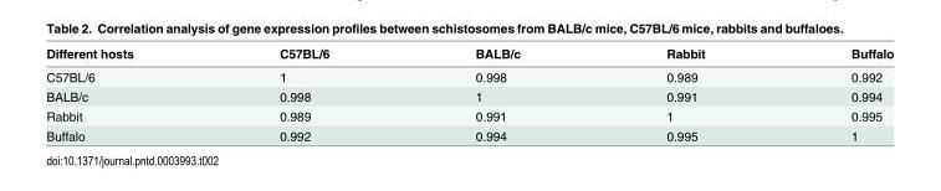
<table><thead><tr><td>Different hosts</td><td>C57BL/6</td><td>BALB/c</td><td>Rabbit</td><td>Buffalo</td></tr></thead><tbody><tr><td>C57BL/6</td><td>1</td><td>0.998</td><td>0.989</td><td>0.992</td></tr><tr><td>BALB/c</td><td>0.998</td><td>1</td><td>0.991</td><td>0.994</td></tr><tr><td>Rabbit</td><td>0.989</td><td>0.991</td><td>1</td><td>0.995</td></tr><tr><td>Buffalo</td><td>0.992</td><td>0.994</td><td>0.995</td><td>1</td></tr></tbody></table>